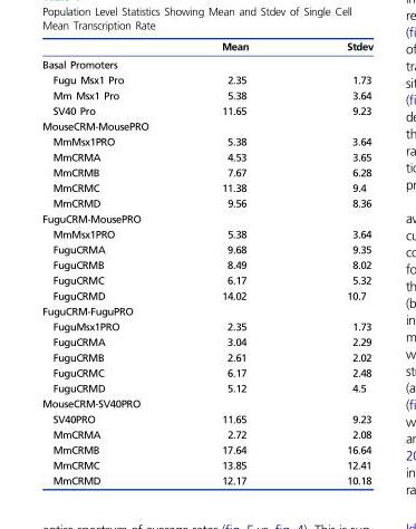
<table><thead><tr><td></td><td>Mean</td><td>Stdev</td></tr></thead><tbody><tr><td colspan="3">Basal Promoters</td></tr><tr><td>Fugu Msx1 Pro</td><td>2.35</td><td>1.73</td></tr><tr><td>Mm Msx1 Pro</td><td>5.38</td><td>3.64</td></tr><tr><td>SV40 Pro</td><td>11.65</td><td>9.23</td></tr><tr><td colspan="3">MouseCRM-MousePRO</td></tr><tr><td>MmMsx1PRO</td><td>5.38</td><td>3.64</td></tr><tr><td>MmCRMA</td><td>4.53</td><td>3.65</td></tr><tr><td>MmCRMB</td><td>7.67</td><td>6.28</td></tr><tr><td>MmCRMC</td><td>11.38</td><td>9.4</td></tr><tr><td>MmCRMD</td><td>9.56</td><td>8.36</td></tr><tr><td colspan="3">FuguCRM-MousePRO</td></tr><tr><td>MmMsx1PRO</td><td>5.38</td><td>3.64</td></tr><tr><td>FuguCRMA</td><td>9.68</td><td>9.35</td></tr><tr><td>FuguCRMB</td><td>8.49</td><td>8.02</td></tr><tr><td>FuguCRMC</td><td>6.17</td><td>5.32</td></tr><tr><td>FuguCRMD</td><td>14.02</td><td>10.7</td></tr><tr><td colspan="3">FuguCRM-FuguPRO</td></tr><tr><td>FuguMsx1PRO</td><td>2.35</td><td>1.73</td></tr><tr><td>FuguCRMA</td><td>3.04</td><td>2.29</td></tr><tr><td>FuguCRMB</td><td>2.61</td><td>2.02</td></tr><tr><td>FuguCRMC</td><td>6.17</td><td>2.48</td></tr><tr><td>FuguCRMD</td><td>5.12</td><td>4.5</td></tr><tr><td colspan="3">MouseCRM-SV40PRO</td></tr><tr><td>SV40PRO</td><td>11.65</td><td>9.23</td></tr><tr><td>MmCRMA</td><td>2.72</td><td>2.08</td></tr><tr><td>MmCRMB</td><td>17.64</td><td>16.64</td></tr><tr><td>MmCRMC</td><td>13.85</td><td>12.41</td></tr><tr><td>MmCRMD</td><td>12.17</td><td>10.18</td></tr></tbody></table>